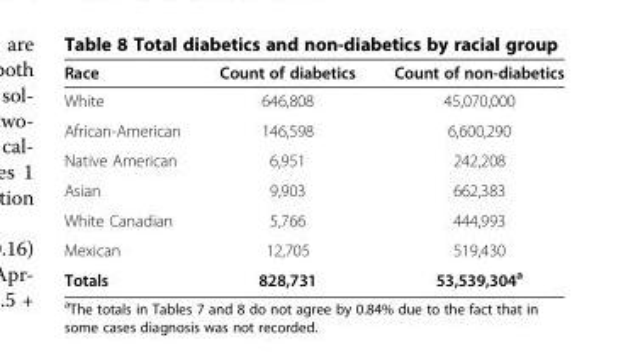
<table><thead><tr><td>Race</td><td>Count of diabetics</td><td>Count of non-diabetics</td></tr></thead><tbody><tr><td>White</td><td>646,808</td><td>45,070,000</td></tr><tr><td>African-American</td><td>146,598</td><td>6,600,290</td></tr><tr><td>Native American</td><td>6,951</td><td>242,208</td></tr><tr><td>Asian</td><td>9,903</td><td>662,383</td></tr><tr><td>White Canadian</td><td>5,766</td><td>444,993</td></tr><tr><td>Mexican</td><td>12,705</td><td>519,430</td></tr><tr><td>Totals</td><td>828,731</td><td>53,539,304<sup>a</sup></td></tr></tbody></table>